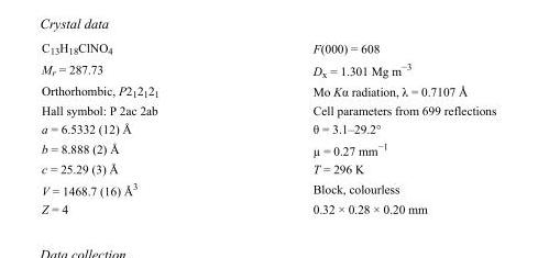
<table><tbody><tr><td>C<sub>13</sub>H<sub>18</sub>ClNO<sub>4</sub></td><td>F(000) = 608</td></tr><tr><td>M<sub>r</sub> = 287.73</td><td>D<sub>x</sub> = 1.301 Mg m<sup>−3</sup></td></tr><tr><td>Orthorhombic, P2<sub>1</sub>2<sub>1</sub>2<sub>1</sub></td><td>Mo Kα radiation, λ = 0.7107 Å</td></tr><tr><td>Hall symbol: P 2ac 2ab</td><td>Cell parameters from 699 reflections</td></tr><tr><td>a = 6.5332 (12) Å</td><td>θ = 3.1–29.2°</td></tr><tr><td>b = 8.888 (2) Å</td><td>µ = 0.27 mm<sup>−1</sup></td></tr><tr><td>c = 25.29 (3) Å</td><td>T = 296 K</td></tr><tr><td>V = 1468.7 (16) Å<sup>3</sup></td><td>Block, colourless</td></tr><tr><td>Z = 4</td><td>0.32 × 0.28 × 0.20 mm</td></tr></tbody></table>